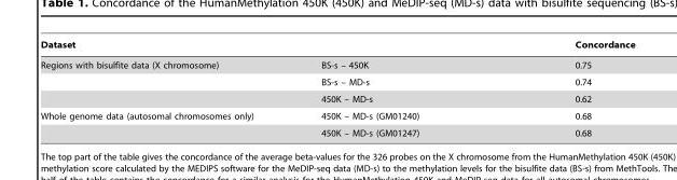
<table><thead><tr><td colspan="2">Dataset</td><td rowspan="2">Concordance 0.75</td></tr><tr><td>Regions with bisulfite data (X chromosome)</td><td>BS-s – 450K</td></tr></thead><tbody><tr><td></td><td>BS-s – MD-s</td><td>0.74</td></tr><tr><td></td><td>450K – MD-s</td><td>0.62</td></tr><tr><td rowspan="2">Whole genome data (autosomal chromosomes only)</td><td>450K – MD-s (GM01240)</td><td>0.68</td></tr><tr><td>450K – MD-s (GM01247)</td><td>0.68</td></tr></tbody></table>